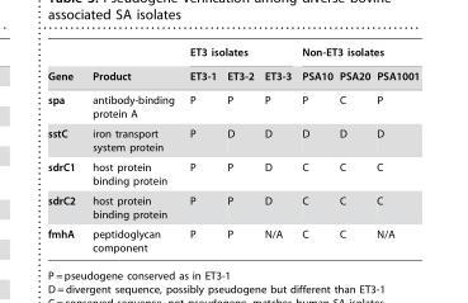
<table><thead><tr><td rowspan="2">Gene</td><td rowspan="2">Product</td><td colspan="3">ET3 isolates</td><td colspan="3">Non-ET3 isolates</td></tr><tr><td>ET3-1</td><td>ET3-2</td><td>ET3-3</td><td>PSA10</td><td>PSA20</td><td>PSA1001</td></tr></thead><tbody><tr><td>spa</td><td>antibody-binding protein A</td><td>P</td><td>P</td><td>P</td><td>P</td><td>C</td><td>P</td></tr><tr><td>sstC</td><td>iron transport system protein</td><td>P</td><td>D</td><td>D</td><td>D</td><td>D</td><td>D</td></tr><tr><td>sdrC1</td><td>host protein binding protein</td><td>P</td><td>P</td><td>D</td><td>C</td><td>C</td><td>C</td></tr><tr><td>sdrC2</td><td>host protein binding protein</td><td>P</td><td>P</td><td>D</td><td>C</td><td>C</td><td>C</td></tr><tr><td>fmhA</td><td>peptidoglycan component</td><td>P</td><td>P</td><td>N/A</td><td>C</td><td>C</td><td>N/A</td></tr></tbody></table>